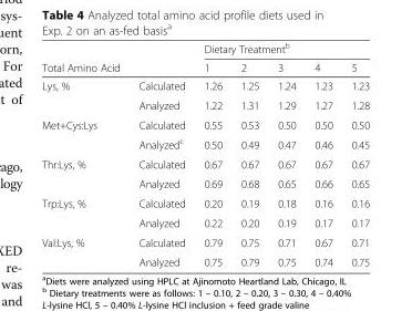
<table><thead><tr><td rowspan="2">Total Amino Acid</td><td rowspan="2"></td><td colspan="5">Dietary Treatment<sup>b</sup></td></tr><tr><td>1</td><td>2</td><td>3</td><td>4</td><td>5</td></tr></thead><tbody><tr><td rowspan="2">Lys, %</td><td>Calculated</td><td>1.26</td><td>1.25</td><td>1.24</td><td>1.23</td><td>1.23</td></tr><tr><td>Analyzed</td><td>1.22</td><td>1.31</td><td>1.29</td><td>1.27</td><td>1.28</td></tr><tr><td rowspan="2">Met+Cys:Lys</td><td>Calculated</td><td>0.55</td><td>0.53</td><td>0.50</td><td>0.50</td><td>0.50</td></tr><tr><td>Analyzed<sup>c</sup></td><td>0.50</td><td>0.49</td><td>0.47</td><td>0.46</td><td>0.45</td></tr><tr><td rowspan="2">Thr:Lys, %</td><td>Calculated</td><td>0.67</td><td>0.67</td><td>0.67</td><td>0.67</td><td>0.67</td></tr><tr><td>Analyzed</td><td>0.69</td><td>0.68</td><td>0.65</td><td>0.66</td><td>0.65</td></tr><tr><td rowspan="2">Trp:Lys, %</td><td>Calculated</td><td>0.20</td><td>0.19</td><td>0.18</td><td>0.16</td><td>0.16</td></tr><tr><td>Analyzed</td><td>0.22</td><td>0.20</td><td>0.19</td><td>0.17</td><td>0.17</td></tr><tr><td rowspan="2">Val:Lys, %</td><td>Calculated</td><td>0.79</td><td>0.75</td><td>0.71</td><td>0.67</td><td>0.71</td></tr><tr><td>Analyzed</td><td>0.75</td><td>0.79</td><td>0.75</td><td>0.74</td><td>0.75</td></tr></tbody></table>